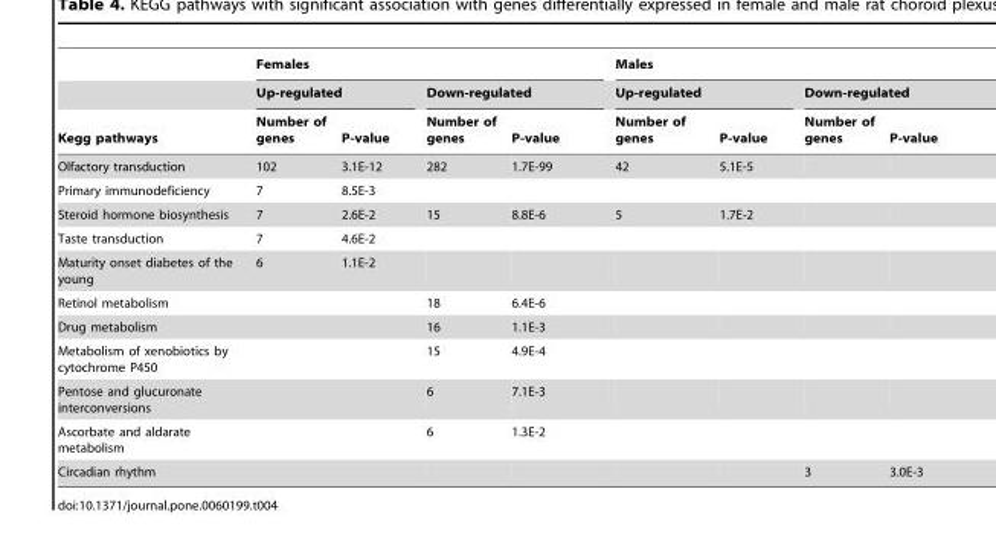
<table><thead><tr><td rowspan="3">Kegg pathways</td><td colspan="4">Females</td><td colspan="4">Males</td></tr><tr><td colspan="2">Up-regulated</td><td colspan="2">Down-regulated</td><td colspan="2">Up-regulated</td><td colspan="2">Down-regulated</td></tr><tr><td>Number of genes</td><td>P-value</td><td>Number of genes</td><td>P-value</td><td>Number of genes</td><td>P-value</td><td>Number of genes</td><td>P-value</td></tr></thead><tbody><tr><td>Olfactory transduction</td><td>102</td><td>3.1E-12</td><td>282</td><td>1.7E-99</td><td>42</td><td>5.1E-5</td><td></td><td></td></tr><tr><td>Primary immunodeficiency</td><td>7</td><td>8.5E-3</td><td></td><td></td><td></td><td></td><td></td><td></td></tr><tr><td>Steroid hormone biosynthesis</td><td>7</td><td>2.6E-2</td><td>15</td><td>8.8E-6</td><td>5</td><td>1.7E-2</td><td></td><td></td></tr><tr><td>Taste transduction</td><td>7</td><td>4.6E-2</td><td></td><td></td><td></td><td></td><td></td><td></td></tr><tr><td>Maturity onset diabetes of the young</td><td>6</td><td>1.1E-2</td><td></td><td></td><td></td><td></td><td></td><td></td></tr><tr><td>Retinol metabolism</td><td></td><td></td><td>18</td><td>6.4E-6</td><td></td><td></td><td></td><td></td></tr><tr><td>Drug metabolism</td><td></td><td></td><td>16</td><td>1.1E-3</td><td></td><td></td><td></td><td></td></tr><tr><td>Metabolism of xenobiotics by cytochrome P450</td><td></td><td></td><td>15</td><td>4.9E-4</td><td></td><td></td><td></td><td></td></tr><tr><td>Pentose and glucuronate interconversions</td><td></td><td></td><td>6</td><td>7.1E-3</td><td></td><td></td><td></td><td></td></tr><tr><td>Ascorbate and aldarate metabolism</td><td></td><td></td><td>6</td><td>1.3E-2</td><td></td><td></td><td></td><td></td></tr><tr><td>Circadian rhythm</td><td></td><td></td><td></td><td></td><td></td><td></td><td>3</td><td>3.0E-3</td></tr></tbody></table>